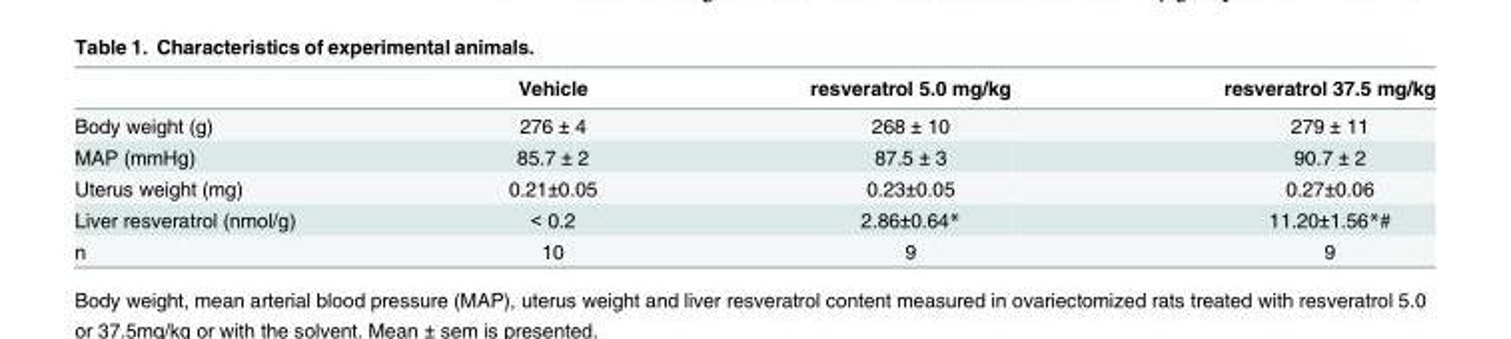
<table><thead><tr><td></td><td>Vehicle</td><td>resveratrol 5.0 mg/kg</td><td>resveratrol 37.5 mg/kg</td></tr></thead><tbody><tr><td>Body weight (g)</td><td>276 ± 4</td><td>268 ± 10</td><td>279 ± 11</td></tr><tr><td>MAP (mmHg)</td><td>85.7 ± 2</td><td>87.5 ± 3</td><td>90.7 ± 2</td></tr><tr><td>Uterus weight (mg)</td><td>0.21±0.05</td><td>0.23±0.05</td><td>0.27±0.06</td></tr><tr><td>Liver resveratrol (nmol/g)</td><td>&lt; 0.2</td><td>2.86±0.64*</td><td>11.20±1.56*#</td></tr><tr><td>n</td><td>10</td><td>9</td><td>9</td></tr></tbody></table>